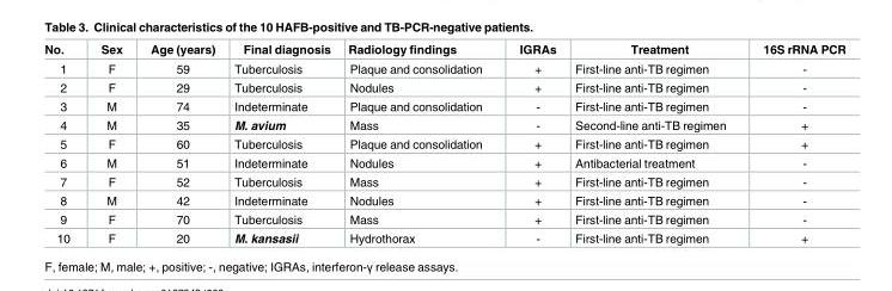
<table><thead><tr><td>No.</td><td>Sex</td><td>Age (years)</td><td>Final diagnosis</td><td>Radiology findings</td><td>IGRAs</td><td>Treatment</td><td>16S rRNA PCR</td></tr></thead><tbody><tr><td>1</td><td>F</td><td>59</td><td>Tuberculosis</td><td>Plaque and consolidation</td><td>+</td><td>First-line anti-TB regimen</td><td>-</td></tr><tr><td>2</td><td>F</td><td>29</td><td>Tuberculosis</td><td>Nodules</td><td>+</td><td>First-line anti-TB regimen</td><td>-</td></tr><tr><td>3</td><td>M</td><td>74</td><td>Indeterminate</td><td>Plaque and consolidation</td><td>-</td><td>First-line anti-TB regimen</td><td>-</td></tr><tr><td>4</td><td>M</td><td>35</td><td>M. avium</td><td>Mass</td><td>-</td><td>Second-line anti-TB regimen</td><td>+</td></tr><tr><td>5</td><td>F</td><td>60</td><td>Tuberculosis</td><td>Plaque and consolidation</td><td>+</td><td>First-line anti-TB regimen</td><td>+</td></tr><tr><td>6</td><td>M</td><td>51</td><td>Indeterminate</td><td>Nodules</td><td>+</td><td>Antibacterial treatment</td><td>-</td></tr><tr><td>7</td><td>F</td><td>52</td><td>Tuberculosis</td><td>Mass</td><td>+</td><td>First-line anti-TB regimen</td><td>-</td></tr><tr><td>8</td><td>M</td><td>42</td><td>Indeterminate</td><td>Nodules</td><td>+</td><td>First-line anti-TB regimen</td><td>-</td></tr><tr><td>9</td><td>F</td><td>70</td><td>Tuberculosis</td><td>Mass</td><td>+</td><td>First-line anti-TB regimen</td><td>-</td></tr><tr><td>10</td><td>F</td><td>20</td><td>M. kansasii</td><td>Hydrothorax</td><td>-</td><td>First-line anti-TB regimen</td><td>+</td></tr></tbody></table>